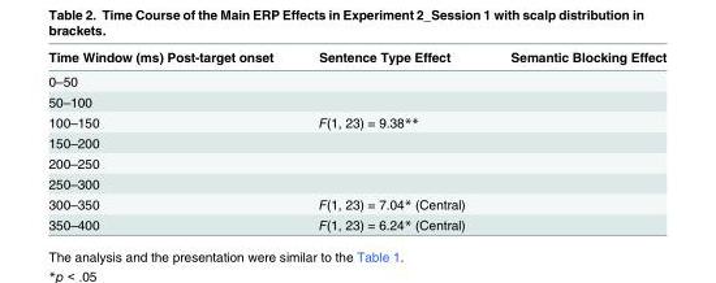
<table><thead><tr><td>Time Window (ms) Post-target onset</td><td>Sentence Type Effect</td><td>Semantic Blocking Effect</td></tr></thead><tbody><tr><td colspan="3">0–50</td></tr><tr><td colspan="3">50–100</td></tr><tr><td>100–150</td><td>F(1, 23) = 9.38**</td><td></td></tr><tr><td colspan="3">150–200</td></tr><tr><td colspan="3">200–250</td></tr><tr><td colspan="3">250–300</td></tr><tr><td>300–350</td><td>F(1, 23) = 7.04* (Central)</td><td></td></tr><tr><td>350–400</td><td>F(1, 23) = 6.24* (Central)</td><td></td></tr></tbody></table>